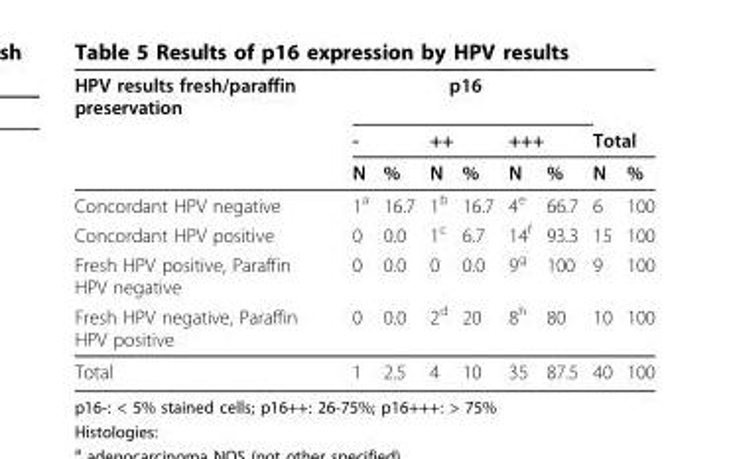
<table><thead><tr><td rowspan="3">HPV results fresh/paraffin preservation</td><td colspan="6">p16</td><td></td><td></td></tr><tr><td colspan="2">-</td><td colspan="2">++</td><td colspan="2">+++</td><td colspan="2">Total</td></tr><tr><td>N</td><td>%</td><td>N</td><td>%</td><td>N</td><td>%</td><td>N</td><td>%</td></tr></thead><tbody><tr><td>Concordant HPV negative</td><td>1<sup>a</sup></td><td>16.7</td><td>1<sup>b</sup></td><td>16.7</td><td>4<sup>e</sup></td><td>66.7</td><td>6</td><td>100</td></tr><tr><td>Concordant HPV positive</td><td>0</td><td>0.0</td><td>1<sup>c</sup></td><td>6.7</td><td>14<sup>f</sup></td><td>93.3</td><td>15</td><td>100</td></tr><tr><td>Fresh HPV positive, Paraffin HPV negative</td><td>0</td><td>0.0</td><td>0</td><td>0.0</td><td>9<sup>g</sup></td><td>100</td><td>9</td><td>100</td></tr><tr><td>Fresh HPV negative, Paraffin HPV positive</td><td>0</td><td>0.0</td><td>2<sup>d</sup></td><td>20</td><td>8<sup>h</sup></td><td>80</td><td>10</td><td>100</td></tr><tr><td>Total</td><td>1</td><td>2.5</td><td>4</td><td>10</td><td>35</td><td>87.5</td><td>40</td><td>100</td></tr></tbody></table>